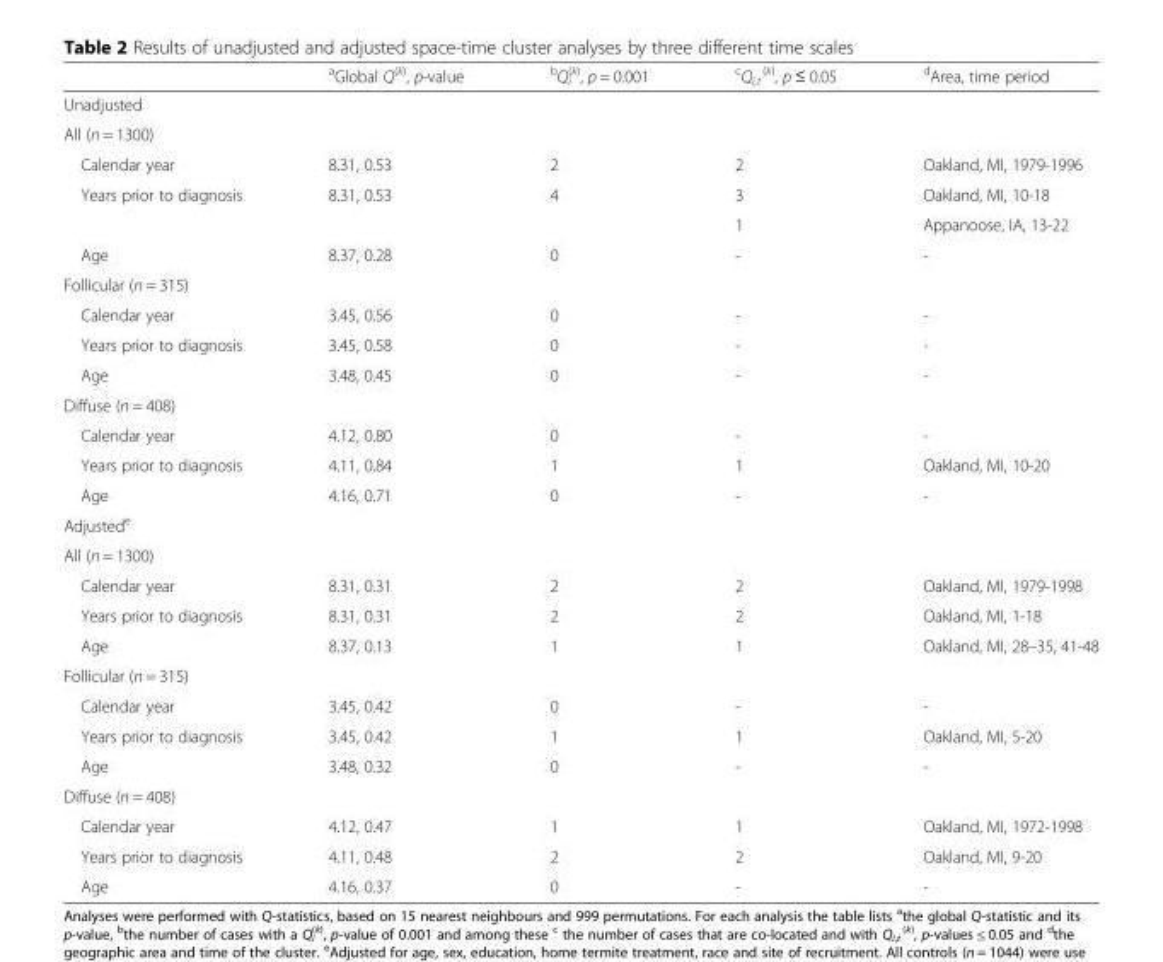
<table><thead><tr><td></td><td><sup>a</sup>Global Q<sup>(k)</sup>, p-value</td><td><sup>b</sup>Q<sub>i</sub> <sup>(k)</sup>, p = 0.001</td><td><sup>c</sup>Q<sub>i,t</sub> <sup>(k)</sup>, p ≤ 0.05</td><td><sup>d</sup>Area, time period</td></tr></thead><tbody><tr><td colspan="5">Unadjusted</td></tr><tr><td colspan="5">All (n = 1300)</td></tr><tr><td>Calendar year</td><td>8.31, 0.53</td><td>2</td><td>2</td><td>Oakland, MI, 1979-1996</td></tr><tr><td rowspan="2">Years prior to diagnosis</td><td>8.31, 0.53</td><td>4</td><td>3</td><td>Oakland, MI, 10-18</td></tr><tr><td></td><td></td><td>1</td><td>Appanoose, IA, 13-22</td></tr><tr><td>Age</td><td>8.37, 0.28</td><td>0</td><td>-</td><td>-</td></tr><tr><td colspan="5">Follicular (n = 315)</td></tr><tr><td>Calendar year</td><td>3.45, 0.56</td><td>0</td><td>-</td><td>-</td></tr><tr><td>Years prior to diagnosis</td><td>3.45, 0.58</td><td>0</td><td>-</td><td>-</td></tr><tr><td>Age</td><td>3.48, 0.45</td><td>0</td><td>-</td><td>-</td></tr><tr><td colspan="5">Diffuse (n = 408)</td></tr><tr><td>Calendar year</td><td>4.12, 0.80</td><td>0</td><td>-</td><td>-</td></tr><tr><td>Years prior to diagnosis</td><td>4.11, 0.84</td><td>1</td><td>1</td><td>Oakland, MI, 10-20</td></tr><tr><td>Age</td><td>4.16, 0.71</td><td>0</td><td>-</td><td>-</td></tr><tr><td colspan="5">Adjusted<sup>e</sup></td></tr><tr><td colspan="5">All (n = 1300)</td></tr><tr><td>Calendar year</td><td>8.31, 0.31</td><td>2</td><td>2</td><td>Oakland, MI, 1979-1998</td></tr><tr><td>Years prior to diagnosis</td><td>8.31, 0.31</td><td>2</td><td>2</td><td>Oakland, MI, 1-18</td></tr><tr><td>Age</td><td>8.37, 0.13</td><td>1</td><td>1</td><td>Oakland, MI, 28–35, 41-48</td></tr><tr><td colspan="5">Follicular (n = 315)</td></tr><tr><td>Calendar year</td><td>3.45, 0.42</td><td>0</td><td>-</td><td>-</td></tr><tr><td>Years prior to diagnosis</td><td>3.45, 0.42</td><td>1</td><td>1</td><td>Oakland, MI, 5-20</td></tr><tr><td>Age</td><td>3.48, 0.32</td><td>0</td><td>-</td><td>-</td></tr><tr><td colspan="5">Diffuse (n = 408)</td></tr><tr><td>Calendar year</td><td>4.12, 0.47</td><td>1</td><td>1</td><td>Oakland, MI, 1972-1998</td></tr><tr><td>Years prior to diagnosis</td><td>4.11, 0.48</td><td>2</td><td>2</td><td>Oakland, MI, 9-20</td></tr><tr><td>Age</td><td>4.16, 0.37</td><td>0</td><td>-</td><td>-</td></tr></tbody></table>